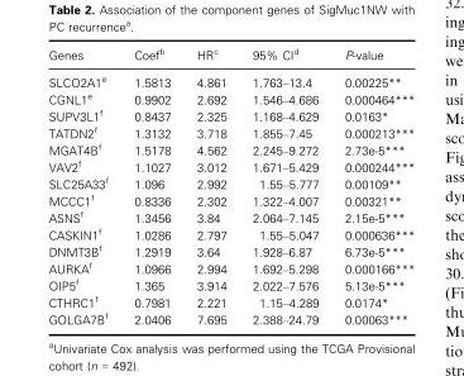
<table><thead><tr><td>Genes</td><td>Coef<sup>b</sup></td><td>HR<sup>c</sup></td><td>95% CI<sup>d</sup></td><td>P-value</td></tr></thead><tbody><tr><td>SLCO2A1<sup>e</sup></td><td>1.5813</td><td>4.861</td><td>1.763–13.4</td><td>0.00225**</td></tr><tr><td>CGNL1<sup>e</sup></td><td>0.9902</td><td>2.692</td><td>1.546–4.686</td><td>0.000464***</td></tr><tr><td>SUPV3L1<sup>f</sup></td><td>0.8437</td><td>2.325</td><td>1.168–4.629</td><td>0.0163*</td></tr><tr><td>TATDN2<sup>f</sup></td><td>1.3132</td><td>3.718</td><td>1.855–7.45</td><td>0.000213***</td></tr><tr><td>MGAT4B<sup>f</sup></td><td>1.5178</td><td>4.562</td><td>2.245–9.272</td><td>2.73e-5***</td></tr><tr><td>VAV2<sup>f</sup></td><td>1.1027</td><td>3.012</td><td>1.671–5.429</td><td>0.000244***</td></tr><tr><td>SLC25A33<sup>f</sup></td><td>1.096</td><td>2.992</td><td>1.55–5.777</td><td>0.00109**</td></tr><tr><td>MCCC1<sup>f</sup></td><td>0.8336</td><td>2.302</td><td>1.322–4.007</td><td>0.00321**</td></tr><tr><td>ASNS<sup>f</sup></td><td>1.3456</td><td>3.84</td><td>2.064–7.145</td><td>2.15e-5***</td></tr><tr><td>CASKIN1<sup>f</sup></td><td>1.0286</td><td>2.797</td><td>1.55–5.047</td><td>0.000636***</td></tr><tr><td>DNMT3B<sup>f</sup></td><td>1.2919</td><td>3.64</td><td>1.928–6.87</td><td>6.73e-5***</td></tr><tr><td>AURKA<sup>f</sup></td><td>1.0966</td><td>2.994</td><td>1.692–5.298</td><td>0.000166***</td></tr><tr><td>OIP5<sup>f</sup></td><td>1.365</td><td>3.914</td><td>2.022–7.576</td><td>5.13e-5***</td></tr><tr><td>CTHRC1<sup>f</sup></td><td>0.7981</td><td>2.221</td><td>1.15–4.289</td><td>0.0174*</td></tr><tr><td>GOLGA7B<sup>f</sup></td><td>2.0406</td><td>7.695</td><td>2.388–24.79</td><td>0.00063***</td></tr></tbody></table>